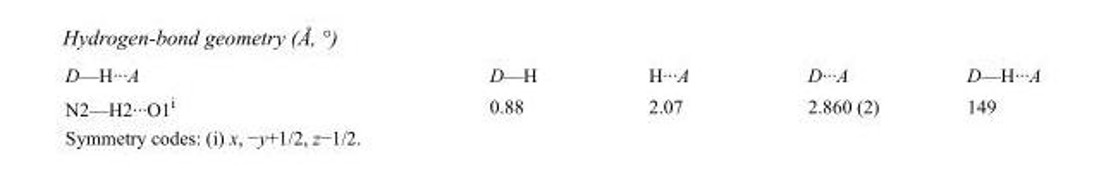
<table><tbody><tr><td>D—H···A</td><td>D—H</td><td>H···A</td><td>D···A</td><td>D—H···A</td></tr><tr><td>N2—H2···O1<sup>i</sup></td><td>0.88</td><td>2.07</td><td>2.860 (2)</td><td>149</td></tr></tbody></table>